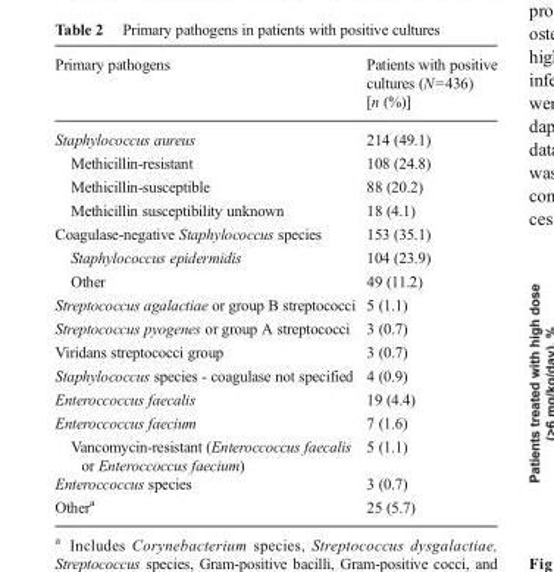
<table><thead><tr><td>Primary pathogens</td><td>Patients with positive cultures (N=436) [n (%)]</td></tr></thead><tbody><tr><td>Staphylococcus aureus</td><td>214 (49.1)</td></tr><tr><td>Methicillin-resistant</td><td>108 (24.8)</td></tr><tr><td>Methicillin-susceptible</td><td>88 (20.2)</td></tr><tr><td>Methicillin susceptibility unknown</td><td>18 (4.1)</td></tr><tr><td>Coagulase-negative Staphylococcus species</td><td>153 (35.1)</td></tr><tr><td>Staphylococcus epidermidis</td><td>104 (23.9)</td></tr><tr><td>Other</td><td>49 (11.2)</td></tr><tr><td>Streptococcus agalactiae or group B streptococci</td><td>5 (1.1)</td></tr><tr><td>Streptococcus pyogenes or group A streptococci</td><td>3 (0.7)</td></tr><tr><td>Viridans streptococci group</td><td>3 (0.7)</td></tr><tr><td>Staphylococcus species - coagulase not specified</td><td>4 (0.9)</td></tr><tr><td>Enteroccoccus faecalis</td><td>19 (4.4)</td></tr><tr><td>Enteroccoccus faecium</td><td>7 (1.6)</td></tr><tr><td>Vancomycin-resistant (Enteroccoccus faecalis or Enteroccoccus faecium)</td><td>5 (1.1)</td></tr><tr><td>Enteroccoccus species</td><td>3 (0.7)</td></tr><tr><td>Other<sup>a</sup></td><td>25 (5.7)</td></tr></tbody></table>